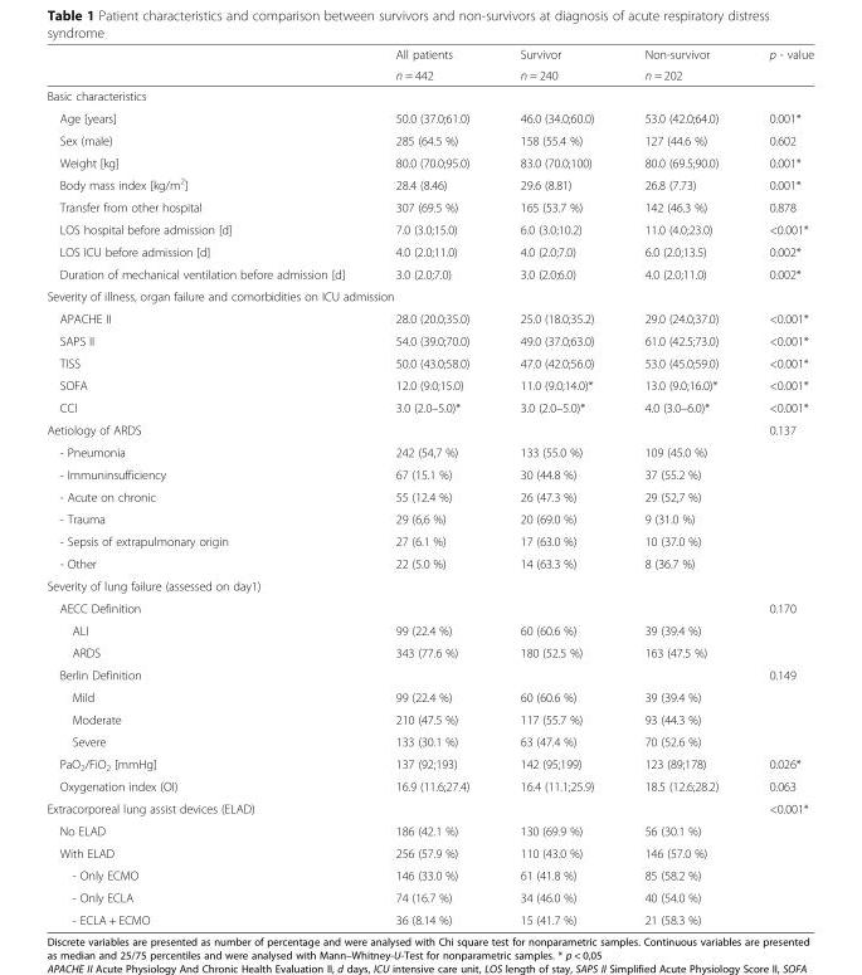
<table><thead><tr><td rowspan="2"></td><td rowspan="2">All patients n = 442</td><td rowspan="2">Survivor n = 240</td><td rowspan="2">Non-survivor n = 202</td><td rowspan="2">p - value</td></tr><tr></tr></thead><tbody><tr><td colspan="5">Basic characteristics</td></tr><tr><td>Age [years]</td><td>50.0 (37.0;61.0)</td><td>46.0 (34.0;60.0)</td><td>53.0 (42.0;64.0)</td><td>0.001*</td></tr><tr><td>Sex (male)</td><td>285 (64.5 %)</td><td>158 (55.4 %)</td><td>127 (44.6 %)</td><td>0.602</td></tr><tr><td>Weight [kg]</td><td>80.0 (70.0;95.0)</td><td>83.0 (70.0;100)</td><td>80.0 (69.5;90.0)</td><td>0.001*</td></tr><tr><td>Body mass index [kg/m<sup>2</sup>]</td><td>28.4 (8.46)</td><td>29.6 (8.81)</td><td>26.8 (7.73)</td><td>0.001*</td></tr><tr><td>Transfer from other hospital</td><td>307 (69.5 %)</td><td>165 (53.7 %)</td><td>142 (46.3 %)</td><td>0.878</td></tr><tr><td>LOS hospital before admission [d]</td><td>7.0 (3.0;15.0)</td><td>6.0 (3.0;10.2)</td><td>11.0 (4.0;23.0)</td><td>&lt;0.001*</td></tr><tr><td>LOS ICU before admission [d]</td><td>4.0 (2.0;11.0)</td><td>4.0 (2.0;7.0)</td><td>6.0 (2.0;13.5)</td><td>0.002*</td></tr><tr><td>Duration of mechanical ventilation before admission [d]</td><td>3.0 (2.0;7.0)</td><td>3.0 (2.0;6.0)</td><td>4.0 (2.0;11.0)</td><td>0.002*</td></tr><tr><td colspan="5">Severity of illness, organ failure and comorbidities on ICU admission</td></tr><tr><td>APACHE II</td><td>28.0 (20.0;35.0)</td><td>25.0 (18.0;35.2)</td><td>29.0 (24.0;37.0)</td><td>&lt;0.001*</td></tr><tr><td>SAPS II</td><td>54.0 (39.0;70.0)</td><td>49.0 (37.0;63.0)</td><td>61.0 (42.5;73.0)</td><td>&lt;0.001*</td></tr><tr><td>TISS</td><td>50.0 (43.0;58.0)</td><td>47.0 (42.0;56.0)</td><td>53.0 (45.0;59.0)</td><td>&lt;0.001*</td></tr><tr><td>SOFA</td><td>12.0 (9.0;15.0)</td><td>11.0 (9.0;14.0)*</td><td>13.0 (9.0;16.0)*</td><td>&lt;0.001*</td></tr><tr><td>CCI</td><td>3.0 (2.0–5.0)*</td><td>3.0 (2.0–5.0)*</td><td>4.0 (3.0–6.0)*</td><td>&lt;0.001*</td></tr><tr><td colspan="4">Aetiology of ARDS</td><td rowspan="7">0.137</td></tr><tr><td>- Pneumonia</td><td>242 (54,7 %)</td><td>133 (55.0 %)</td><td>109 (45.0 %)</td></tr><tr><td>- Immuninsufficiency</td><td>67 (15.1 %)</td><td>30 (44.8 %)</td><td>37 (55.2 %)</td></tr><tr><td>- Acute on chronic</td><td>55 (12.4 %)</td><td>26 (47.3 %)</td><td>29 (52,7 %)</td></tr><tr><td>- Trauma</td><td>29 (6,6 %)</td><td>20 (69.0 %)</td><td>9 (31.0 %)</td></tr><tr><td>- Sepsis of extrapulmonary origin</td><td>27 (6.1 %)</td><td>17 (63.0 %)</td><td>10 (37.0 %)</td></tr><tr><td>- Other</td><td>22 (5.0 %)</td><td>14 (63.3 %)</td><td>8 (36.7 %)</td></tr><tr><td colspan="5">Severity of lung failure (assessed on day1)</td></tr><tr><td colspan="4">AECC Definition</td><td rowspan="3">0.170</td></tr><tr><td>ALI</td><td>99 (22.4 %)</td><td>60 (60.6 %)</td><td>39 (39.4 %)</td></tr><tr><td>ARDS</td><td>343 (77.6 %)</td><td>180 (52.5 %)</td><td>163 (47.5 %)</td></tr><tr><td colspan="4">Berlin Definition</td><td rowspan="4">0.149</td></tr><tr><td>Mild</td><td>99 (22.4 %)</td><td>60 (60.6 %)</td><td>39 (39.4 %)</td></tr><tr><td>Moderate</td><td>210 (47.5 %)</td><td>117 (55.7 %)</td><td>93 (44.3 %)</td></tr><tr><td>Severe</td><td>133 (30.1 %)</td><td>63 (47.4 %)</td><td>70 (52.6 %)</td></tr><tr><td>PaO<sub>2</sub>/FiO<sub>2</sub> [mmHg]</td><td>137 (92;193)</td><td>142 (95;199)</td><td>123 (89;178)</td><td>0.026*</td></tr><tr><td>Oxygenation index (OI)</td><td>16.9 (11.6;27.4)</td><td>16.4 (11.1;25.9)</td><td>18.5 (12.6;28.2)</td><td>0.063</td></tr><tr><td colspan="4">Extracorporeal lung assist devices (ELAD)</td><td rowspan="6">&lt;0.001*</td></tr><tr><td>No ELAD</td><td>186 (42.1 %)</td><td>130 (69.9 %)</td><td>56 (30.1 %)</td></tr><tr><td>With ELAD</td><td>256 (57.9 %)</td><td>110 (43.0 %)</td><td>146 (57.0 %)</td></tr><tr><td>- Only ECMO</td><td>146 (33.0 %)</td><td>61 (41.8 %)</td><td>85 (58.2 %)</td></tr><tr><td>- Only ECLA</td><td>74 (16.7 %)</td><td>34 (46.0 %)</td><td>40 (54.0 %)</td></tr><tr><td>- ECLA + ECMO</td><td>36 (8.14 %)</td><td>15 (41.7 %)</td><td>21 (58.3 %)</td></tr></tbody></table>